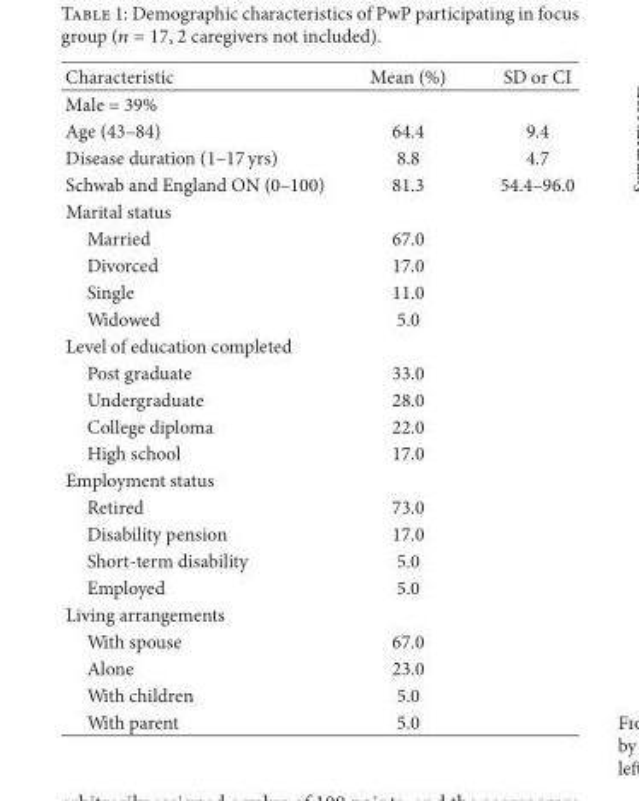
<table><thead><tr><td>Characteristic</td><td>Mean (%)</td><td>SD or CI</td></tr></thead><tbody><tr><td colspan="3">Male = 39%</td></tr><tr><td>Age (43–84)</td><td>64.4</td><td>9.4</td></tr><tr><td>Disease duration (1–17 yrs)</td><td>8.8</td><td>4.7</td></tr><tr><td>Schwab and England ON (0–100)</td><td>81.3</td><td>54.4–96.0</td></tr><tr><td colspan="3">Marital status</td></tr><tr><td>Married</td><td>67.0</td><td></td></tr><tr><td>Divorced</td><td>17.0</td><td></td></tr><tr><td>Single</td><td>11.0</td><td></td></tr><tr><td>Widowed</td><td>5.0</td><td></td></tr><tr><td colspan="3">Level of education completed</td></tr><tr><td>Post graduate</td><td>33.0</td><td></td></tr><tr><td>Undergraduate</td><td>28.0</td><td></td></tr><tr><td>College diploma</td><td>22.0</td><td></td></tr><tr><td>High school</td><td>17.0</td><td></td></tr><tr><td colspan="3">Employment status</td></tr><tr><td>Retired</td><td>73.0</td><td></td></tr><tr><td>Disability pension</td><td>17.0</td><td></td></tr><tr><td>Short-term disability</td><td>5.0</td><td></td></tr><tr><td>Employed</td><td>5.0</td><td></td></tr><tr><td colspan="3">Living arrangements</td></tr><tr><td>With spouse</td><td>67.0</td><td></td></tr><tr><td>Alone</td><td>23.0</td><td></td></tr><tr><td>With children</td><td>5.0</td><td></td></tr><tr><td>With parent</td><td>5.0</td><td></td></tr></tbody></table>